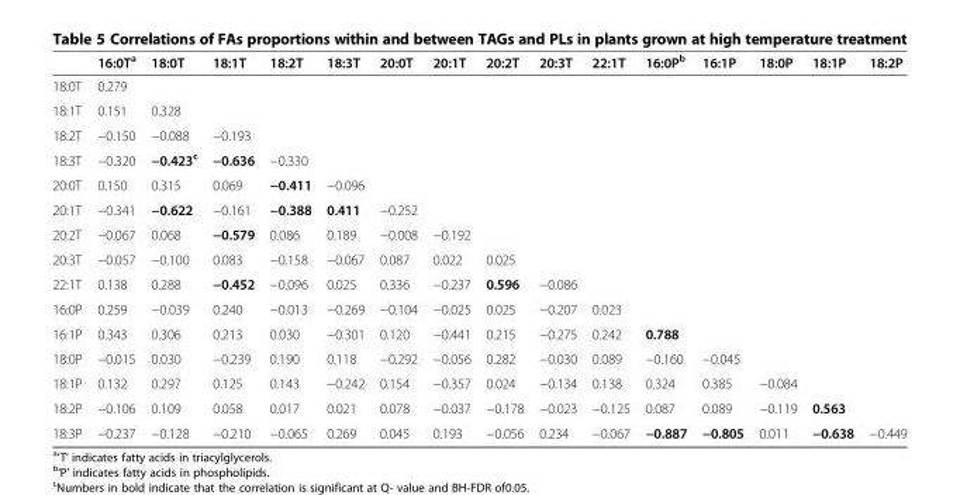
<table><thead><tr><td></td><td>16:0T<sup>a</sup></td><td>18:0T</td><td>18:1T</td><td>18:2T</td><td>18:3T</td><td>20:0T</td><td>20:1T</td><td>20:2T</td><td>20:3T</td><td>22:1T</td><td>16:0P<sup>b</sup></td><td>16:1P</td><td>18:0P</td><td>18:1P</td><td>18:2P</td></tr></thead><tbody><tr><td>18:0T</td><td>0.279</td><td></td><td></td><td></td><td></td><td></td><td></td><td></td><td></td><td></td><td></td><td></td><td></td><td></td><td></td></tr><tr><td>18:1T</td><td>0.151</td><td>0.328</td><td></td><td></td><td></td><td></td><td></td><td></td><td></td><td></td><td></td><td></td><td></td><td></td><td></td></tr><tr><td>18:2T</td><td>−0.150</td><td>−0.088</td><td>−0.193</td><td></td><td></td><td></td><td></td><td></td><td></td><td></td><td></td><td></td><td></td><td></td><td></td></tr><tr><td>18:3T</td><td>−0.320</td><td>−0.423<sup>c</sup></td><td>−0.636</td><td>−0.330</td><td></td><td></td><td></td><td></td><td></td><td></td><td></td><td></td><td></td><td></td><td></td></tr><tr><td>20:0T</td><td>0.150</td><td>0.315</td><td>0.069</td><td>−0.411</td><td>−0.096</td><td></td><td></td><td></td><td></td><td></td><td></td><td></td><td></td><td></td><td></td></tr><tr><td>20:1T</td><td>−0.341</td><td>−0.622</td><td>−0.161</td><td>−0.388</td><td>0.411</td><td>−0.252</td><td></td><td></td><td></td><td></td><td></td><td></td><td></td><td></td><td></td></tr><tr><td>20:2T</td><td>−0.067</td><td>0.068</td><td>−0.579</td><td>0.086</td><td>0.189</td><td>−0.008</td><td>−0.192</td><td></td><td></td><td></td><td></td><td></td><td></td><td></td><td></td></tr><tr><td>20:3T</td><td>−0.057</td><td>−0.100</td><td>0.083</td><td>−0.158</td><td>−0.067</td><td>0.087</td><td>0.022</td><td>0.025</td><td></td><td></td><td></td><td></td><td></td><td></td><td></td></tr><tr><td>22:1T</td><td>0.138</td><td>0.288</td><td>−0.452</td><td>−0.096</td><td>0.025</td><td>0.336</td><td>−0.237</td><td>0.596</td><td>−0.086</td><td></td><td></td><td></td><td></td><td></td><td></td></tr><tr><td>16:0P</td><td>0.259</td><td>−0.039</td><td>0.240</td><td>−0.013</td><td>−0.269</td><td>−0.104</td><td>−0.025</td><td>0.025</td><td>−0.207</td><td>0.023</td><td></td><td></td><td></td><td></td><td></td></tr><tr><td>16:1P</td><td>0.343</td><td>0.306</td><td>0.213</td><td>0.030</td><td>−0.301</td><td>0.120</td><td>−0.441</td><td>0.215</td><td>−0.275</td><td>0.242</td><td>0.788</td><td></td><td></td><td></td><td></td></tr><tr><td>18:0P</td><td>−0.015</td><td>0.030</td><td>−0.239</td><td>0.190</td><td>0.118</td><td>−0.292</td><td>−0.056</td><td>0.282</td><td>−0.030</td><td>0.089</td><td>−0.160</td><td>−0.045</td><td></td><td></td><td></td></tr><tr><td>18:1P</td><td>0.132</td><td>0.297</td><td>0.125</td><td>0.143</td><td>−0.242</td><td>0.154</td><td>−0.357</td><td>0.024</td><td>−0.134</td><td>0.138</td><td>0.324</td><td>0.385</td><td>−0.084</td><td></td><td></td></tr><tr><td>18:2P</td><td>−0.106</td><td>0.109</td><td>0.058</td><td>0.017</td><td>0.021</td><td>0.078</td><td>−0.037</td><td>−0.178</td><td>−0.023</td><td>−0.125</td><td>0.087</td><td>0.089</td><td>−0.119</td><td>0.563</td><td></td></tr><tr><td>18:3P</td><td>−0.237</td><td>−0.128</td><td>−0.210</td><td>−0.065</td><td>0.269</td><td>0.045</td><td>0.193</td><td>−0.056</td><td>0.234</td><td>−0.067</td><td>−0.887</td><td>−0.805</td><td>0.011</td><td>−0.638</td><td>−0.449</td></tr></tbody></table>